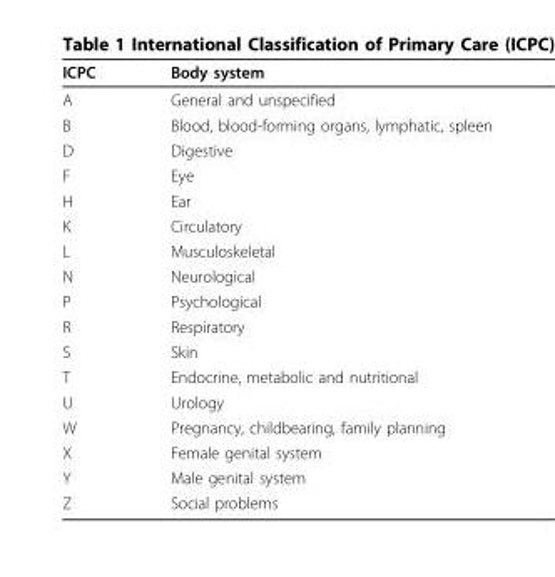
<table><thead><tr><td>ICPC</td><td>Body system</td></tr></thead><tbody><tr><td>A</td><td>General and unspecified</td></tr><tr><td>B</td><td>Blood, blood-forming organs, lymphatic, spleen</td></tr><tr><td>D</td><td>Digestive</td></tr><tr><td>F</td><td>Eye</td></tr><tr><td>H</td><td>Ear</td></tr><tr><td>K</td><td>Circulatory</td></tr><tr><td>L</td><td>Musculoskeletal</td></tr><tr><td>N</td><td>Neurological</td></tr><tr><td>P</td><td>Psychological</td></tr><tr><td>R</td><td>Respiratory</td></tr><tr><td>S</td><td>Skin</td></tr><tr><td>T</td><td>Endocrine, metabolic and nutritional</td></tr><tr><td>U</td><td>Urology</td></tr><tr><td>W</td><td>Pregnancy, childbearing, family planning</td></tr><tr><td>X</td><td>Female genital system</td></tr><tr><td>Y</td><td>Male genital system</td></tr><tr><td>Z</td><td>Social problems</td></tr></tbody></table>